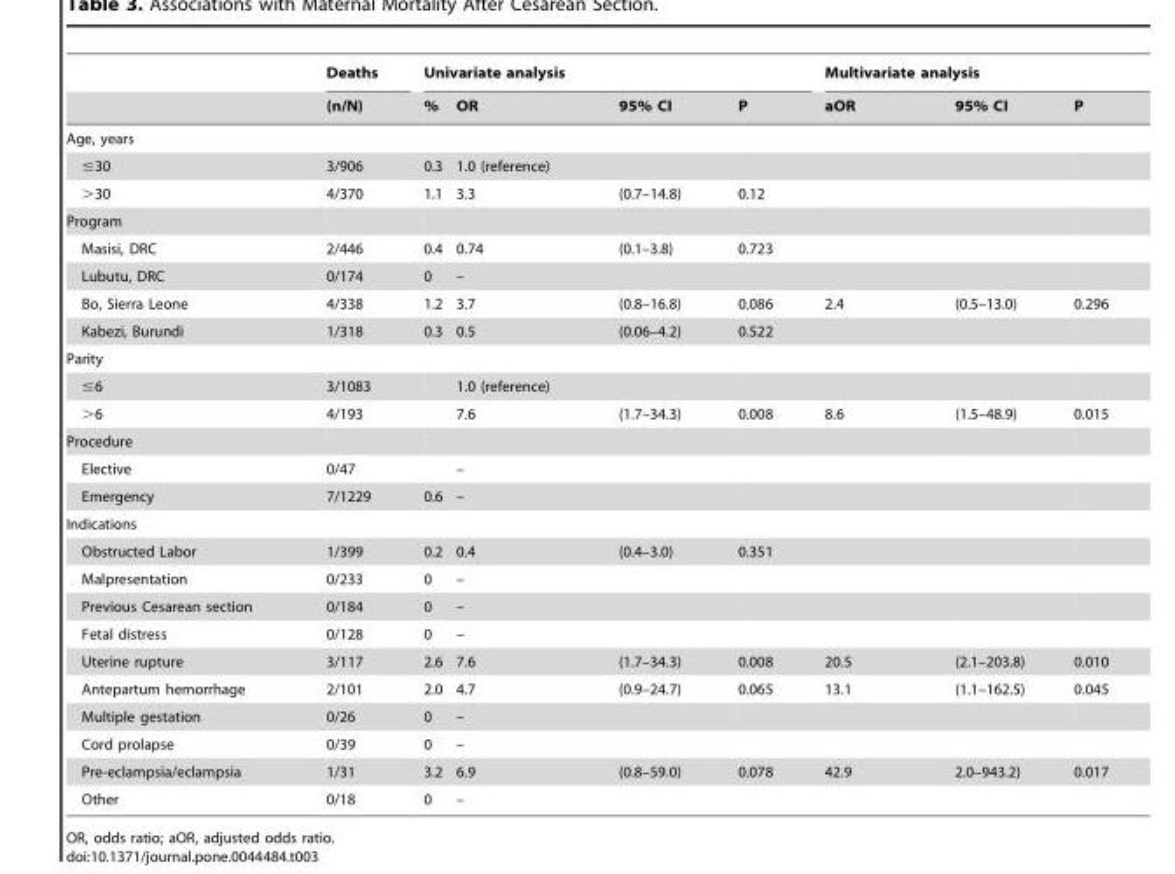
<table><thead><tr><td rowspan="2"></td><td rowspan="2">Deaths (n/N)</td><td colspan="4">Univariate analysis</td><td colspan="3">Multivariate analysis</td></tr><tr><td>%</td><td>OR</td><td>95% CI</td><td>P</td><td>aOR</td><td>95% CI</td><td>P</td></tr></thead><tbody><tr><td colspan="9">Age, years</td></tr><tr><td>≤30</td><td>3/906</td><td>0.3</td><td>1.0 (reference)</td><td></td><td></td><td></td><td></td><td></td></tr><tr><td>&gt;30</td><td>4/370</td><td>1.1</td><td>3.3</td><td>(0.7–14.8)</td><td>0.12</td><td></td><td></td><td></td></tr><tr><td colspan="9">Program</td></tr><tr><td>Masisi, DRC</td><td>2/446</td><td>0.4</td><td>0.74</td><td>(0.1–3.8)</td><td>0.723</td><td></td><td></td><td></td></tr><tr><td>Lubutu, DRC</td><td>0/174</td><td>0</td><td>–</td><td></td><td></td><td></td><td></td><td></td></tr><tr><td>Bo, Sierra Leone</td><td>4/338</td><td>1.2</td><td>3.7</td><td>(0.8–16.8)</td><td>0.086</td><td>2.4</td><td>(0.5–13.0)</td><td>0.296</td></tr><tr><td>Kabezi, Burundi</td><td>1/318</td><td>0.3</td><td>0.5</td><td>(0.06–4.2)</td><td>0.522</td><td></td><td></td><td></td></tr><tr><td colspan="9">Parity</td></tr><tr><td>≤6</td><td>3/1083</td><td></td><td>1.0 (reference)</td><td></td><td></td><td></td><td></td><td></td></tr><tr><td>&gt;6</td><td>4/193</td><td></td><td>7.6</td><td>(1.7–34.3)</td><td>0.008</td><td>8.6</td><td>(1.5–48.9)</td><td>0.015</td></tr><tr><td colspan="9">Procedure</td></tr><tr><td>Elective</td><td>0/47</td><td></td><td>–</td><td></td><td></td><td></td><td></td><td></td></tr><tr><td>Emergency</td><td>7/1229</td><td>0.6</td><td>–</td><td></td><td></td><td></td><td></td><td></td></tr><tr><td colspan="9">Indications</td></tr><tr><td>Obstructed Labor</td><td>1/399</td><td>0.2</td><td>0.4</td><td>(0.4–3.0)</td><td>0.351</td><td></td><td></td><td></td></tr><tr><td>Malpresentation</td><td>0/233</td><td>0</td><td>–</td><td></td><td></td><td></td><td></td><td></td></tr><tr><td>Previous Cesarean section</td><td>0/184</td><td>0</td><td>–</td><td></td><td></td><td></td><td></td><td></td></tr><tr><td>Fetal distress</td><td>0/128</td><td>0</td><td>–</td><td></td><td></td><td></td><td></td><td></td></tr><tr><td>Uterine rupture</td><td>3/117</td><td>2.6</td><td>7.6</td><td>(1.7–34.3)</td><td>0.008</td><td>20.5</td><td>(2.1–203.8)</td><td>0.010</td></tr><tr><td>Antepartum hemorrhage</td><td>2/101</td><td>2.0</td><td>4.7</td><td>(0.9–24.7)</td><td>0.065</td><td>13.1</td><td>(1.1–162.5)</td><td>0.045</td></tr><tr><td>Multiple gestation</td><td>0/26</td><td>0</td><td>–</td><td></td><td></td><td></td><td></td><td></td></tr><tr><td>Cord prolapse</td><td>0/39</td><td>0</td><td>–</td><td></td><td></td><td></td><td></td><td></td></tr><tr><td>Pre-eclampsia/eclampsia</td><td>1/31</td><td>3.2</td><td>6.9</td><td>(0.8–59.0)</td><td>0.078</td><td>42.9</td><td>2.0–943.2)</td><td>0.017</td></tr><tr><td>Other</td><td>0/18</td><td>0</td><td>–</td><td></td><td></td><td></td><td></td><td></td></tr></tbody></table>